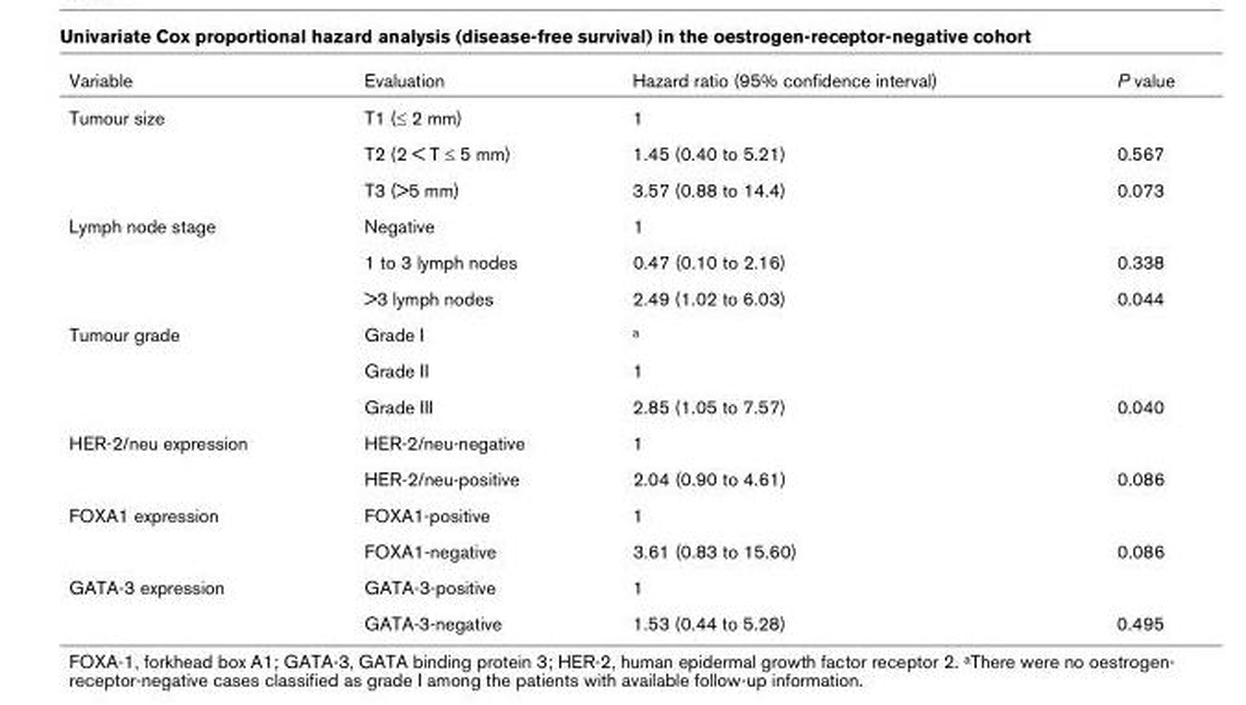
<table><thead><tr><td>Variable</td><td>Evaluation</td><td>Hazard ratio (95% confidence interval)</td><td>P value</td></tr></thead><tbody><tr><td rowspan="3">Tumour size</td><td>T1 (≤ 2 mm)</td><td>1</td><td></td></tr><tr><td>T2 (2 &lt; T ≤ 5 mm)</td><td>1.45 (0.40 to 5.21)</td><td>0.567</td></tr><tr><td>T3 (&gt;5 mm)</td><td>3.57 (0.88 to 14.4)</td><td>0.073</td></tr><tr><td rowspan="3">Lymph node stage</td><td>Negative</td><td>1</td><td></td></tr><tr><td>1 to 3 lymph nodes</td><td>0.47 (0.10 to 2.16)</td><td>0.338</td></tr><tr><td>&gt;3 lymph nodes</td><td>2.49 (1.02 to 6.03)</td><td>0.044</td></tr><tr><td rowspan="3">Tumour grade</td><td>Grade I</td><td><sup>a</sup></td><td></td></tr><tr><td>Grade II</td><td>1</td><td></td></tr><tr><td>Grade III</td><td>2.85 (1.05 to 7.57)</td><td>0.040</td></tr><tr><td rowspan="2">HER-2/neu expression</td><td>HER-2/neu-negative</td><td>1</td><td></td></tr><tr><td>HER-2/neu-positive</td><td>2.04 (0.90 to 4.61)</td><td>0.086</td></tr><tr><td rowspan="2">FOXA1 expression</td><td>FOXA1-positive</td><td>1</td><td></td></tr><tr><td>FOXA1-negative</td><td>3.61 (0.83 to 15.60)</td><td>0.086</td></tr><tr><td rowspan="2">GATA-3 expression</td><td>GATA-3-positive</td><td>1</td><td></td></tr><tr><td>GATA-3-negative</td><td>1.53 (0.44 to 5.28)</td><td>0.495</td></tr></tbody></table>